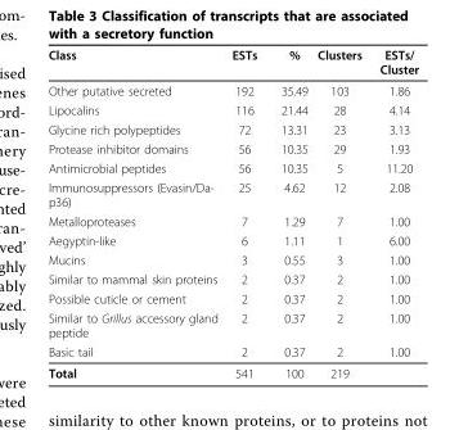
<table><thead><tr><td>Class</td><td>ESTs</td><td>%</td><td>Clusters</td><td>ESTs/ Cluster</td></tr></thead><tbody><tr><td>Other putative secreted</td><td>192</td><td>35.49</td><td>103</td><td>1.86</td></tr><tr><td>Lipocalins</td><td>116</td><td>21.44</td><td>28</td><td>4.14</td></tr><tr><td>Glycine rich polypeptides</td><td>72</td><td>13.31</td><td>23</td><td>3.13</td></tr><tr><td>Protease inhibitor domains</td><td>56</td><td>10.35</td><td>29</td><td>1.93</td></tr><tr><td>Antimicrobial peptides</td><td>56</td><td>10.35</td><td>5</td><td>11.20</td></tr><tr><td>Immunosuppressors (Evasin/Da- p36)</td><td>25</td><td>4.62</td><td>12</td><td>2.08</td></tr><tr><td>Metalloproteases</td><td>7</td><td>1.29</td><td>7</td><td>1.00</td></tr><tr><td>Aegyptin-like</td><td>6</td><td>1.11</td><td>1</td><td>6.00</td></tr><tr><td>Mucins</td><td>3</td><td>0.55</td><td>3</td><td>1.00</td></tr><tr><td>Similar to mammal skin proteins</td><td>2</td><td>0.37</td><td>2</td><td>1.00</td></tr><tr><td>Possible cuticle or cement</td><td>2</td><td>0.37</td><td>2</td><td>1.00</td></tr><tr><td>Similar to Grillus accessory gland peptide</td><td>2</td><td>0.37</td><td>2</td><td>1.00</td></tr><tr><td>Basic tail</td><td>2</td><td>0.37</td><td>2</td><td>1.00</td></tr><tr><td>Total</td><td>541</td><td>100</td><td>219</td><td></td></tr></tbody></table>